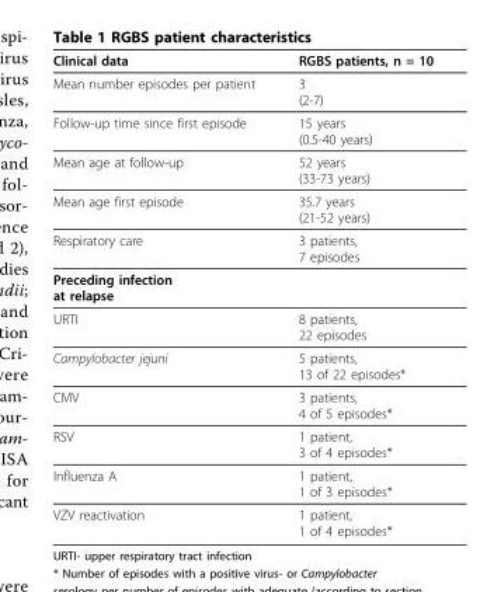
<table><thead><tr><td>Clinical data</td><td>RGBS patients, n = 10</td></tr></thead><tbody><tr><td>Mean number episodes per patient</td><td>3 (2-7)</td></tr><tr><td>Follow-up time since first episode</td><td>15 years (0.5-40 years)</td></tr><tr><td>Mean age at follow-up</td><td>52 years (33-73 years)</td></tr><tr><td>Mean age first episode</td><td>35.7 years (21-52 years)</td></tr><tr><td>Respiratory care</td><td>3 patients, 7 episodes</td></tr><tr><td colspan="2">Preceding infection at relapse</td></tr><tr><td>URTI</td><td>8 patients, 22 episodes</td></tr><tr><td>Campylobacter jejuni</td><td>5 patients, 13 of 22 episodes*</td></tr><tr><td>CMV</td><td>3 patients, 4 of 5 episodes*</td></tr><tr><td>RSV</td><td>1 patient, 3 of 4 episodes*</td></tr><tr><td>Influenza A</td><td>1 patient, 1 of 3 episodes*</td></tr><tr><td>VZV reactivation</td><td>1 patient, 1 of 4 episodes*</td></tr></tbody></table>